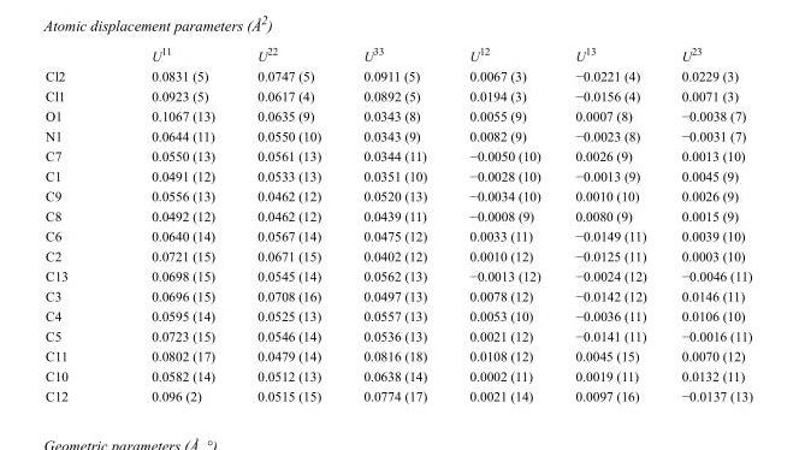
<table><thead><tr><td></td><td>U<sup>11</sup></td><td>U<sup>22</sup></td><td>U<sup>33</sup></td><td>U<sup>12</sup></td><td>U<sup>13</sup></td><td>U<sup>23</sup></td></tr></thead><tbody><tr><td>Cl2</td><td>0.0831 (5)</td><td>0.0747 (5)</td><td>0.0911 (5)</td><td>0.0067 (3)</td><td>−0.0221 (4)</td><td>0.0229 (3)</td></tr><tr><td>Cl1</td><td>0.0923 (5)</td><td>0.0617 (4)</td><td>0.0892 (5)</td><td>0.0194 (3)</td><td>−0.0156 (4)</td><td>0.0071 (3)</td></tr><tr><td>O1</td><td>0.1067 (13)</td><td>0.0635 (9)</td><td>0.0343 (8)</td><td>0.0055 (9)</td><td>0.0007 (8)</td><td>−0.0038 (7)</td></tr><tr><td>N1</td><td>0.0644 (11)</td><td>0.0550 (10)</td><td>0.0343 (9)</td><td>0.0082 (9)</td><td>−0.0023 (8)</td><td>−0.0031 (7)</td></tr><tr><td>C7</td><td>0.0550 (13)</td><td>0.0561 (13)</td><td>0.0344 (11)</td><td>−0.0050 (10)</td><td>0.0026 (9)</td><td>0.0013 (10)</td></tr><tr><td>C1</td><td>0.0491 (12)</td><td>0.0533 (13)</td><td>0.0351 (10)</td><td>−0.0028 (10)</td><td>−0.0013 (9)</td><td>0.0045 (9)</td></tr><tr><td>C9</td><td>0.0556 (13)</td><td>0.0462 (12)</td><td>0.0520 (13)</td><td>−0.0034 (10)</td><td>0.0010 (10)</td><td>0.0026 (9)</td></tr><tr><td>C8</td><td>0.0492 (12)</td><td>0.0462 (12)</td><td>0.0439 (11)</td><td>−0.0008 (9)</td><td>0.0080 (9)</td><td>0.0015 (9)</td></tr><tr><td>C6</td><td>0.0640 (14)</td><td>0.0567 (14)</td><td>0.0475 (12)</td><td>0.0033 (11)</td><td>−0.0149 (11)</td><td>0.0039 (10)</td></tr><tr><td>C2</td><td>0.0721 (15)</td><td>0.0671 (15)</td><td>0.0402 (12)</td><td>0.0010 (12)</td><td>−0.0125 (11)</td><td>0.0003 (10)</td></tr><tr><td>C13</td><td>0.0698 (15)</td><td>0.0545 (14)</td><td>0.0562 (13)</td><td>−0.0013 (12)</td><td>−0.0024 (12)</td><td>−0.0046 (11)</td></tr><tr><td>C3</td><td>0.0696 (15)</td><td>0.0708 (16)</td><td>0.0497 (13)</td><td>0.0078 (12)</td><td>−0.0142 (12)</td><td>0.0146 (11)</td></tr><tr><td>C4</td><td>0.0595 (14)</td><td>0.0525 (13)</td><td>0.0557 (13)</td><td>0.0053 (10)</td><td>−0.0036 (11)</td><td>0.0106 (10)</td></tr><tr><td>C5</td><td>0.0723 (15)</td><td>0.0546 (14)</td><td>0.0536 (13)</td><td>0.0021 (12)</td><td>−0.0141 (11)</td><td>−0.0016 (11)</td></tr><tr><td>C11</td><td>0.0802 (17)</td><td>0.0479 (14)</td><td>0.0816 (18)</td><td>0.0108 (12)</td><td>0.0045 (15)</td><td>0.0070 (12)</td></tr><tr><td>C10</td><td>0.0582 (14)</td><td>0.0512 (13)</td><td>0.0638 (14)</td><td>0.0002 (11)</td><td>0.0019 (11)</td><td>0.0132 (11)</td></tr><tr><td>C12</td><td>0.096 (2)</td><td>0.0515 (15)</td><td>0.0774 (17)</td><td>0.0021 (14)</td><td>0.0097 (16)</td><td>−0.0137 (13)</td></tr></tbody></table>